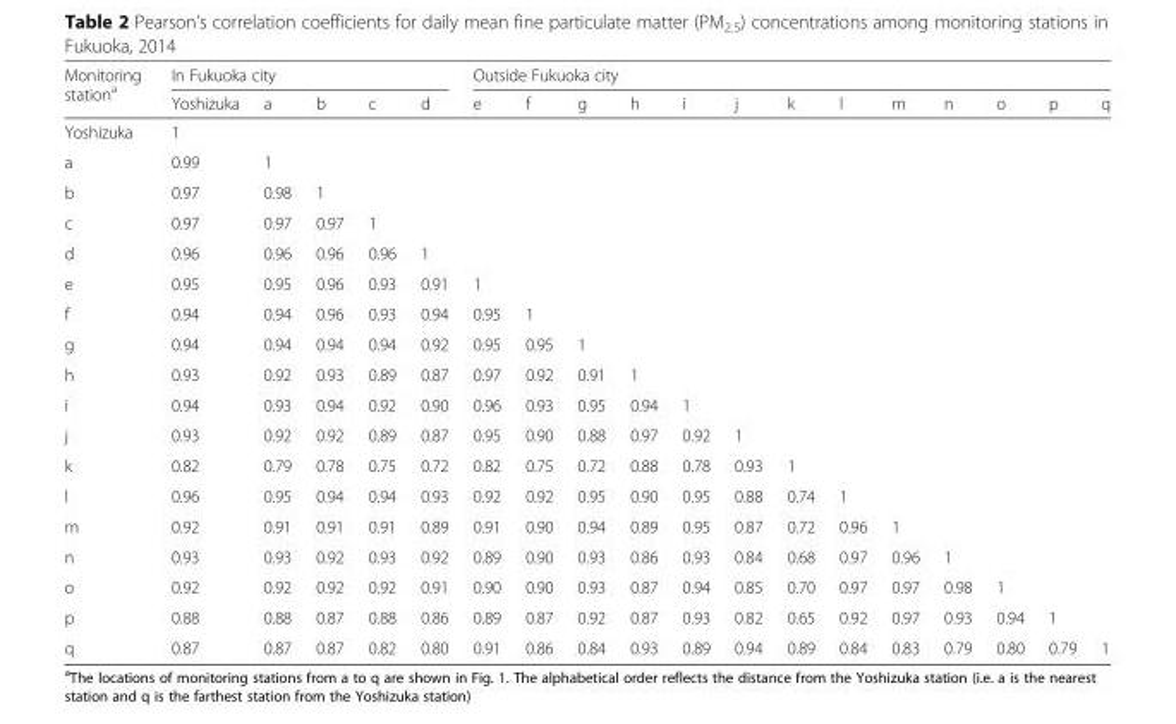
<table><thead><tr><td rowspan="2">Monitoring station<sup>a</sup></td><td colspan="5">In Fukuoka city</td><td colspan="13">Outside Fukuoka city</td></tr><tr><td>Yoshizuka</td><td>a</td><td>b</td><td>c</td><td>d</td><td>e</td><td>f</td><td>g</td><td>h</td><td>i</td><td>j</td><td>k</td><td>l</td><td>m</td><td>n</td><td>o</td><td>p</td><td>q</td></tr></thead><tbody><tr><td>Yoshizuka</td><td>1</td><td></td><td></td><td></td><td></td><td></td><td></td><td></td><td></td><td></td><td></td><td></td><td></td><td></td><td></td><td></td><td></td><td></td></tr><tr><td>a</td><td>0.99</td><td>1</td><td></td><td></td><td></td><td></td><td></td><td></td><td></td><td></td><td></td><td></td><td></td><td></td><td></td><td></td><td></td><td></td></tr><tr><td>b</td><td>0.97</td><td>0.98</td><td>1</td><td></td><td></td><td></td><td></td><td></td><td></td><td></td><td></td><td></td><td></td><td></td><td></td><td></td><td></td><td></td></tr><tr><td>c</td><td>0.97</td><td>0.97</td><td>0.97</td><td>1</td><td></td><td></td><td></td><td></td><td></td><td></td><td></td><td></td><td></td><td></td><td></td><td></td><td></td><td></td></tr><tr><td>d</td><td>0.96</td><td>0.96</td><td>0.96</td><td>0.96</td><td>1</td><td></td><td></td><td></td><td></td><td></td><td></td><td></td><td></td><td></td><td></td><td></td><td></td><td></td></tr><tr><td>e</td><td>0.95</td><td>0.95</td><td>0.96</td><td>0.93</td><td>0.91</td><td>1</td><td></td><td></td><td></td><td></td><td></td><td></td><td></td><td></td><td></td><td></td><td></td><td></td></tr><tr><td>f</td><td>0.94</td><td>0.94</td><td>0.96</td><td>0.93</td><td>0.94</td><td>0.95</td><td>1</td><td></td><td></td><td></td><td></td><td></td><td></td><td></td><td></td><td></td><td></td><td></td></tr><tr><td>g</td><td>0.94</td><td>0.94</td><td>0.94</td><td>0.94</td><td>0.92</td><td>0.95</td><td>0.95</td><td>1</td><td></td><td></td><td></td><td></td><td></td><td></td><td></td><td></td><td></td><td></td></tr><tr><td>h</td><td>0.93</td><td>0.92</td><td>0.93</td><td>0.89</td><td>0.87</td><td>0.97</td><td>0.92</td><td>0.91</td><td>1</td><td></td><td></td><td></td><td></td><td></td><td></td><td></td><td></td><td></td></tr><tr><td>i</td><td>0.94</td><td>0.93</td><td>0.94</td><td>0.92</td><td>0.90</td><td>0.96</td><td>0.93</td><td>0.95</td><td>0.94</td><td>1</td><td></td><td></td><td></td><td></td><td></td><td></td><td></td><td></td></tr><tr><td>j</td><td>0.93</td><td>0.92</td><td>0.92</td><td>0.89</td><td>0.87</td><td>0.95</td><td>0.90</td><td>0.88</td><td>0.97</td><td>0.92</td><td>1</td><td></td><td></td><td></td><td></td><td></td><td></td><td></td></tr><tr><td>k</td><td>0.82</td><td>0.79</td><td>0.78</td><td>0.75</td><td>0.72</td><td>0.82</td><td>0.75</td><td>0.72</td><td>0.88</td><td>0.78</td><td>0.93</td><td>1</td><td></td><td></td><td></td><td></td><td></td><td></td></tr><tr><td>l</td><td>0.96</td><td>0.95</td><td>0.94</td><td>0.94</td><td>0.93</td><td>0.92</td><td>0.92</td><td>0.95</td><td>0.90</td><td>0.95</td><td>0.88</td><td>0.74</td><td>1</td><td></td><td></td><td></td><td></td><td></td></tr><tr><td>m</td><td>0.92</td><td>0.91</td><td>0.91</td><td>0.91</td><td>0.89</td><td>0.91</td><td>0.90</td><td>0.94</td><td>0.89</td><td>0.95</td><td>0.87</td><td>0.72</td><td>0.96</td><td>1</td><td></td><td></td><td></td><td></td></tr><tr><td>n</td><td>0.93</td><td>0.93</td><td>0.92</td><td>0.93</td><td>0.92</td><td>0.89</td><td>0.90</td><td>0.93</td><td>0.86</td><td>0.93</td><td>0.84</td><td>0.68</td><td>0.97</td><td>0.96</td><td>1</td><td></td><td></td><td></td></tr><tr><td>o</td><td>0.92</td><td>0.92</td><td>0.92</td><td>0.92</td><td>0.91</td><td>0.90</td><td>0.90</td><td>0.93</td><td>0.87</td><td>0.94</td><td>0.85</td><td>0.70</td><td>0.97</td><td>0.97</td><td>0.98</td><td>1</td><td></td><td></td></tr><tr><td>p</td><td>0.88</td><td>0.88</td><td>0.87</td><td>0.88</td><td>0.86</td><td>0.89</td><td>0.87</td><td>0.92</td><td>0.87</td><td>0.93</td><td>0.82</td><td>0.65</td><td>0.92</td><td>0.97</td><td>0.93</td><td>0.94</td><td>1</td><td></td></tr><tr><td>q</td><td>0.87</td><td>0.87</td><td>0.87</td><td>0.82</td><td>0.80</td><td>0.91</td><td>0.86</td><td>0.84</td><td>0.93</td><td>0.89</td><td>0.94</td><td>0.89</td><td>0.84</td><td>0.83</td><td>0.79</td><td>0.80</td><td>0.79</td><td>1</td></tr></tbody></table>